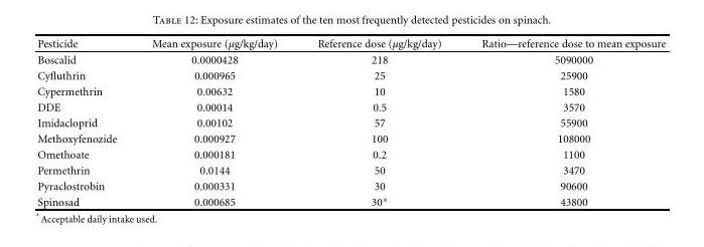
<table><thead><tr><td>Pesticide</td><td>Mean exposure (µg/kg/day)</td><td>Reference dose (µg/kg/day)</td><td>Ratio—reference dose to mean exposure</td></tr></thead><tbody><tr><td>Boscalid</td><td>0.0000428</td><td>218</td><td>5090000</td></tr><tr><td>Cyfluthrin</td><td>0.000965</td><td>25</td><td>25900</td></tr><tr><td>Cypermethrin</td><td>0.00632</td><td>10</td><td>1580</td></tr><tr><td>DDE</td><td>0.00014</td><td>0.5</td><td>3570</td></tr><tr><td>Imidacloprid</td><td>0.00102</td><td>57</td><td>55900</td></tr><tr><td>Methoxyfenozide</td><td>0.000927</td><td>100</td><td>108000</td></tr><tr><td>Omethoate</td><td>0.000181</td><td>0.2</td><td>1100</td></tr><tr><td>Permethrin</td><td>0.0144</td><td>50</td><td>3470</td></tr><tr><td>Pyraclostrobin</td><td>0.000331</td><td>30</td><td>90600</td></tr><tr><td>Spinosad</td><td>0.000685</td><td>30∗</td><td>43800</td></tr></tbody></table>